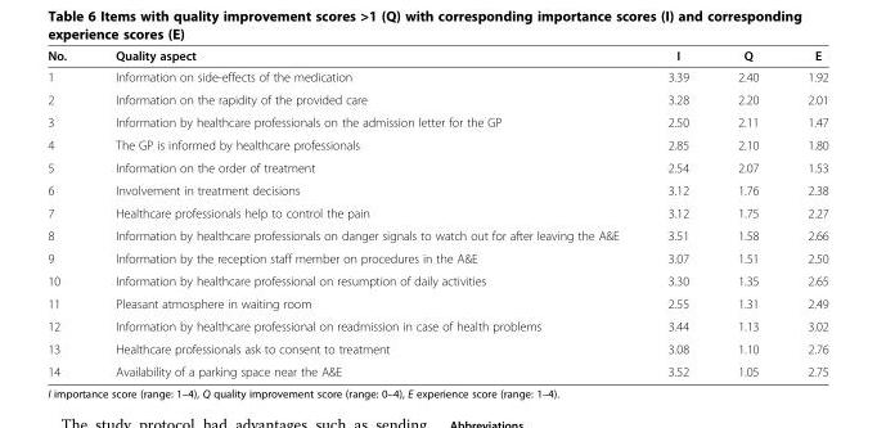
<table><thead><tr><td>No.</td><td>Quality aspect</td><td>I</td><td>Q</td><td>E</td></tr></thead><tbody><tr><td>1</td><td>Information on side-effects of the medication</td><td>3.39</td><td>2.40</td><td>1.92</td></tr><tr><td>2</td><td>Information on the rapidity of the provided care</td><td>3.28</td><td>2.20</td><td>2.01</td></tr><tr><td>3</td><td>Information by healthcare professionals on the admission letter for the GP</td><td>2.50</td><td>2.11</td><td>1.47</td></tr><tr><td>4</td><td>The GP is informed by healthcare professionals</td><td>2.85</td><td>2.10</td><td>1.80</td></tr><tr><td>5</td><td>Information on the order of treatment</td><td>2.54</td><td>2.07</td><td>1.53</td></tr><tr><td>6</td><td>Involvement in treatment decisions</td><td>3.12</td><td>1.76</td><td>2.38</td></tr><tr><td>7</td><td>Healthcare professionals help to control the pain</td><td>3.12</td><td>1.75</td><td>2.27</td></tr><tr><td>8</td><td>Information by healthcare professionals on danger signals to watch out for after leaving the A&amp;E</td><td>3.51</td><td>1.58</td><td>2.66</td></tr><tr><td>9</td><td>Information by the reception staff member on procedures in the A&amp;E</td><td>3.07</td><td>1.51</td><td>2.50</td></tr><tr><td>10</td><td>Information by healthcare professional on resumption of daily activities</td><td>3.30</td><td>1.35</td><td>2.65</td></tr><tr><td>11</td><td>Pleasant atmosphere in waiting room</td><td>2.55</td><td>1.31</td><td>2.49</td></tr><tr><td>12</td><td>Information by healthcare professional on readmission in case of health problems</td><td>3.44</td><td>1.13</td><td>3.02</td></tr><tr><td>13</td><td>Healthcare professionals ask to consent to treatment</td><td>3.08</td><td>1.10</td><td>2.76</td></tr><tr><td>14</td><td>Availability of a parking space near the A&amp;E</td><td>3.52</td><td>1.05</td><td>2.75</td></tr></tbody></table>